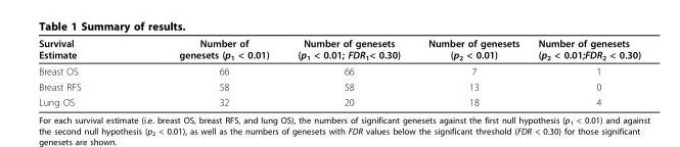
<table><thead><tr><td>Survival Estimate</td><td>Number of genesets (p<sub>1</sub> &lt; 0.01)</td><td>Number of genesets (p<sub>1</sub> &lt; 0.01; FDR<sub>1</sub>&lt; 0.30)</td><td>Number of genesets (p<sub>2</sub> &lt; 0.01)</td><td>Number of genesets (p<sub>2</sub> &lt; 0.01;FDR<sub>2</sub> &lt; 0.30)</td></tr></thead><tbody><tr><td>Breast OS</td><td>66</td><td>66</td><td>7</td><td>1</td></tr><tr><td>Breast RFS</td><td>58</td><td>58</td><td>13</td><td>0</td></tr><tr><td>Lung OS</td><td>32</td><td>20</td><td>18</td><td>4</td></tr></tbody></table>